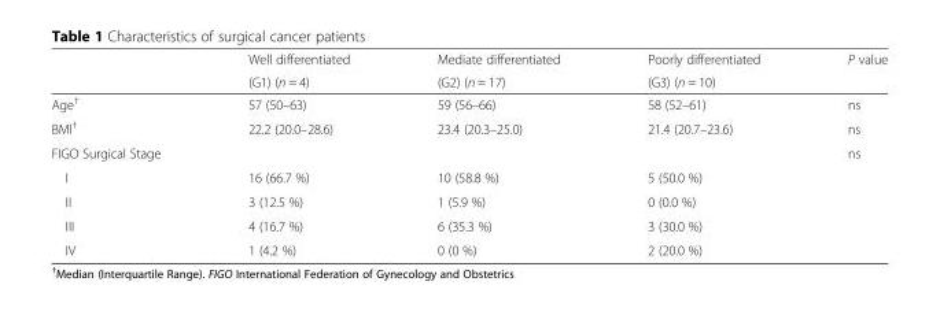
<table><thead><tr><td rowspan="2"></td><td rowspan="2">Well differentiated (G1) (n = 4)</td><td rowspan="2">Mediate differentiated (G2) (n = 17)</td><td rowspan="2">Poorly differentiated (G3) (n = 10)</td><td rowspan="2">P value</td></tr><tr></tr></thead><tbody><tr><td>Age<sup>†</sup></td><td>57 (50–63)</td><td>59 (56–66)</td><td>58 (52–61)</td><td>ns</td></tr><tr><td>BMI<sup>†</sup></td><td>22.2 (20.0–28.6)</td><td>23.4 (20.3–25.0)</td><td>21.4 (20.7–23.6)</td><td>ns</td></tr><tr><td>FIGO Surgical Stage</td><td></td><td></td><td></td><td>ns</td></tr><tr><td>I</td><td>16 (66.7 %)</td><td>10 (58.8 %)</td><td>5 (50.0 %)</td><td></td></tr><tr><td>II</td><td>3 (12.5 %)</td><td>1 (5.9 %)</td><td>0 (0.0 %)</td><td></td></tr><tr><td>III</td><td>4 (16.7 %)</td><td>6 (35.3 %)</td><td>3 (30.0 %)</td><td></td></tr><tr><td>IV</td><td>1 (4.2 %)</td><td>0 (0 %)</td><td>2 (20.0 %)</td><td></td></tr></tbody></table>